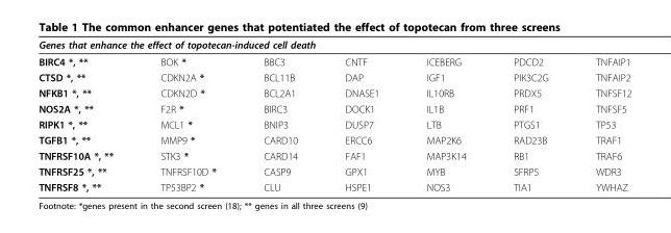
<table><thead><tr><td colspan="7">Genes that enhance the effect of topotecan-induced cell death</td></tr><tr><td>BIRC4 *, **</td><td>BOK *</td><td>BBC3</td><td>CNTF</td><td>ICEBERG</td><td>PDCD2</td><td>TNFAIP1</td></tr></thead><tbody><tr><td>CTSD *, **</td><td>CDKN2A *</td><td>BCL11B</td><td>DAP</td><td>IGF1</td><td>PIK3C2G</td><td>TNFAIP2</td></tr><tr><td>NFKB1 *, **</td><td>CDKN2D *</td><td>BCL2A1</td><td>DNASE1</td><td>IL10RB</td><td>PRDX5</td><td>TNFSF12</td></tr><tr><td>NOS2A *, **</td><td>F2R *</td><td>BIRC3</td><td>DOCK1</td><td>IL1B</td><td>PRF1</td><td>TNFSF5</td></tr><tr><td>RIPK1 *, **</td><td>MCL1 *</td><td>BNIP3</td><td>DUSP7</td><td>LTB</td><td>PTGS1</td><td>TP53</td></tr><tr><td>TGFB1 *, **</td><td>MMP9 *</td><td>CARD10</td><td>ERCC6</td><td>MAP2K6</td><td>RAD23B</td><td>TRAF1</td></tr><tr><td>TNFRSF10A *, **</td><td>STK3 *</td><td>CARD14</td><td>FAF1</td><td>MAP3K14</td><td>RB1</td><td>TRAF6</td></tr><tr><td>TNFRSF25 *, **</td><td>TNFRSF10D *</td><td>CASP9</td><td>GPX1</td><td>MYB</td><td>SFRP5</td><td>WDR3</td></tr><tr><td>TNFRSF8 *, **</td><td>TP53BP2 *</td><td>CLU</td><td>HSPE1</td><td>NOS3</td><td>TIA1</td><td>YWHAZ</td></tr></tbody></table>